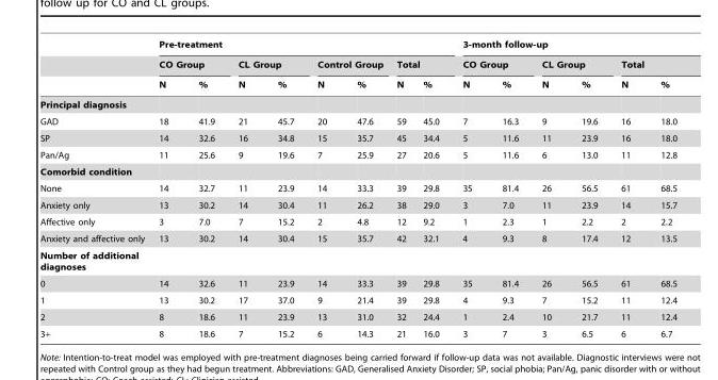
<table><thead><tr><td rowspan="3"></td><td colspan="8">Pre-treatment</td><td colspan="6">3-month follow-up</td></tr><tr><td colspan="2">CO Group</td><td colspan="2">CL Group</td><td colspan="2">Control Group</td><td colspan="2">Total</td><td colspan="2">CO Group</td><td colspan="2">CL Group</td><td colspan="2">Total</td></tr><tr><td>N</td><td>%</td><td>N</td><td>%</td><td>N</td><td>%</td><td>N</td><td>%</td><td>N</td><td>%</td><td>N</td><td>%</td><td>N</td><td>%</td></tr></thead><tbody><tr><td colspan="15">Principal diagnosis</td></tr><tr><td>GAD</td><td>18</td><td>41.9</td><td>21</td><td>45.7</td><td>20</td><td>47.6</td><td>59</td><td>45.0</td><td>7</td><td>16.3</td><td>9</td><td>19.6</td><td>16</td><td>18.0</td></tr><tr><td>SP</td><td>14</td><td>32.6</td><td>16</td><td>34.8</td><td>15</td><td>35.7</td><td>45</td><td>34.4</td><td>5</td><td>11.6</td><td>11</td><td>23.9</td><td>16</td><td>18.0</td></tr><tr><td>Pan/Ag</td><td>11</td><td>25.6</td><td>9</td><td>19.6</td><td>7</td><td>25.9</td><td>27</td><td>20.6</td><td>5</td><td>11.6</td><td>6</td><td>13.0</td><td>11</td><td>12.8</td></tr><tr><td colspan="15">Comorbid condition</td></tr><tr><td>None</td><td>14</td><td>32.7</td><td>11</td><td>23.9</td><td>14</td><td>33.3</td><td>39</td><td>29.8</td><td>35</td><td>81.4</td><td>26</td><td>56.5</td><td>61</td><td>68.5</td></tr><tr><td>Anxiety only</td><td>13</td><td>30.2</td><td>14</td><td>30.4</td><td>11</td><td>26.2</td><td>38</td><td>29.0</td><td>3</td><td>7.0</td><td>11</td><td>23.9</td><td>14</td><td>15.7</td></tr><tr><td>Affective only</td><td>3</td><td>7.0</td><td>7</td><td>15.2</td><td>2</td><td>4.8</td><td>12</td><td>9.2</td><td>1</td><td>2.3</td><td>1</td><td>2.2</td><td>2</td><td>2.2</td></tr><tr><td>Anxiety and affective only</td><td>13</td><td>30.2</td><td>14</td><td>30.4</td><td>15</td><td>35.7</td><td>42</td><td>32.1</td><td>4</td><td>9.3</td><td>8</td><td>17.4</td><td>12</td><td>13.5</td></tr><tr><td colspan="15">Number of additional diagnoses</td></tr><tr><td>0</td><td>14</td><td>32.6</td><td>11</td><td>23.9</td><td>14</td><td>33.3</td><td>39</td><td>29.8</td><td>35</td><td>81.4</td><td>26</td><td>56.5</td><td>61</td><td>68.5</td></tr><tr><td>1</td><td>13</td><td>30.2</td><td>17</td><td>37.0</td><td>9</td><td>21.4</td><td>39</td><td>29.8</td><td>4</td><td>9.3</td><td>7</td><td>15.2</td><td>11</td><td>12.4</td></tr><tr><td>2</td><td>8</td><td>18.6</td><td>11</td><td>23.9</td><td>13</td><td>31.0</td><td>32</td><td>24.4</td><td>1</td><td>2.4</td><td>10</td><td>21.7</td><td>11</td><td>12.4</td></tr><tr><td>3+</td><td>8</td><td>18.6</td><td>7</td><td>15.2</td><td>6</td><td>14.3</td><td>21</td><td>16.0</td><td>3</td><td>7</td><td>3</td><td>6.5</td><td>6</td><td>6.7</td></tr></tbody></table>